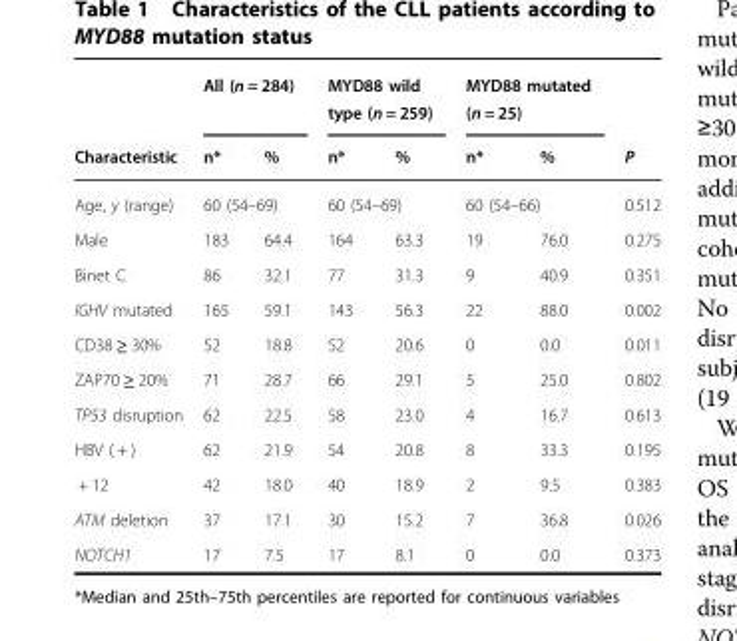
<table><thead><tr><td rowspan="2">Characteristic</td><td colspan="2">All (n = 284)</td><td colspan="2">MYD88 wild type (n = 259)</td><td colspan="2">MYD88 mutated (n = 25)</td><td rowspan="2">P</td></tr><tr><td>n*</td><td>%</td><td>n*</td><td>%</td><td>n*</td><td>%</td></tr></thead><tbody><tr><td>Age, y (range)</td><td colspan="2">60 (54–69)</td><td colspan="2">60 (54–69)</td><td colspan="2">60 (54–66)</td><td>0.512</td></tr><tr><td>Male</td><td>183</td><td>64.4</td><td>164</td><td>63.3</td><td>19</td><td>76.0</td><td>0.275</td></tr><tr><td>Binet C</td><td>86</td><td>32.1</td><td>77</td><td>31.3</td><td>9</td><td>40.9</td><td>0.351</td></tr><tr><td>IGHV mutated</td><td>165</td><td>59.1</td><td>143</td><td>56.3</td><td>22</td><td>88.0</td><td>0.002</td></tr><tr><td>CD38 ≥ 30%</td><td>52</td><td>18.8</td><td>52</td><td>20.6</td><td>0</td><td>0.0</td><td>0.011</td></tr><tr><td>ZAP70 ≥ 20%</td><td>71</td><td>28.7</td><td>66</td><td>29.1</td><td>5</td><td>25.0</td><td>0.802</td></tr><tr><td>TP53 disruption</td><td>62</td><td>22.5</td><td>58</td><td>23.0</td><td>4</td><td>16.7</td><td>0.613</td></tr><tr><td>HBV ( + )</td><td>62</td><td>21.9</td><td>54</td><td>20.8</td><td>8</td><td>33.3</td><td>0.195</td></tr><tr><td>+ 12</td><td>42</td><td>18.0</td><td>40</td><td>18.9</td><td>2</td><td>9.5</td><td>0.383</td></tr><tr><td>ATM deletion</td><td>37</td><td>17.1</td><td>30</td><td>15.2</td><td>7</td><td>36.8</td><td>0.026</td></tr><tr><td>NOTCH1</td><td>17</td><td>7.5</td><td>17</td><td>8.1</td><td>0</td><td>0.0</td><td>0.373</td></tr></tbody></table>